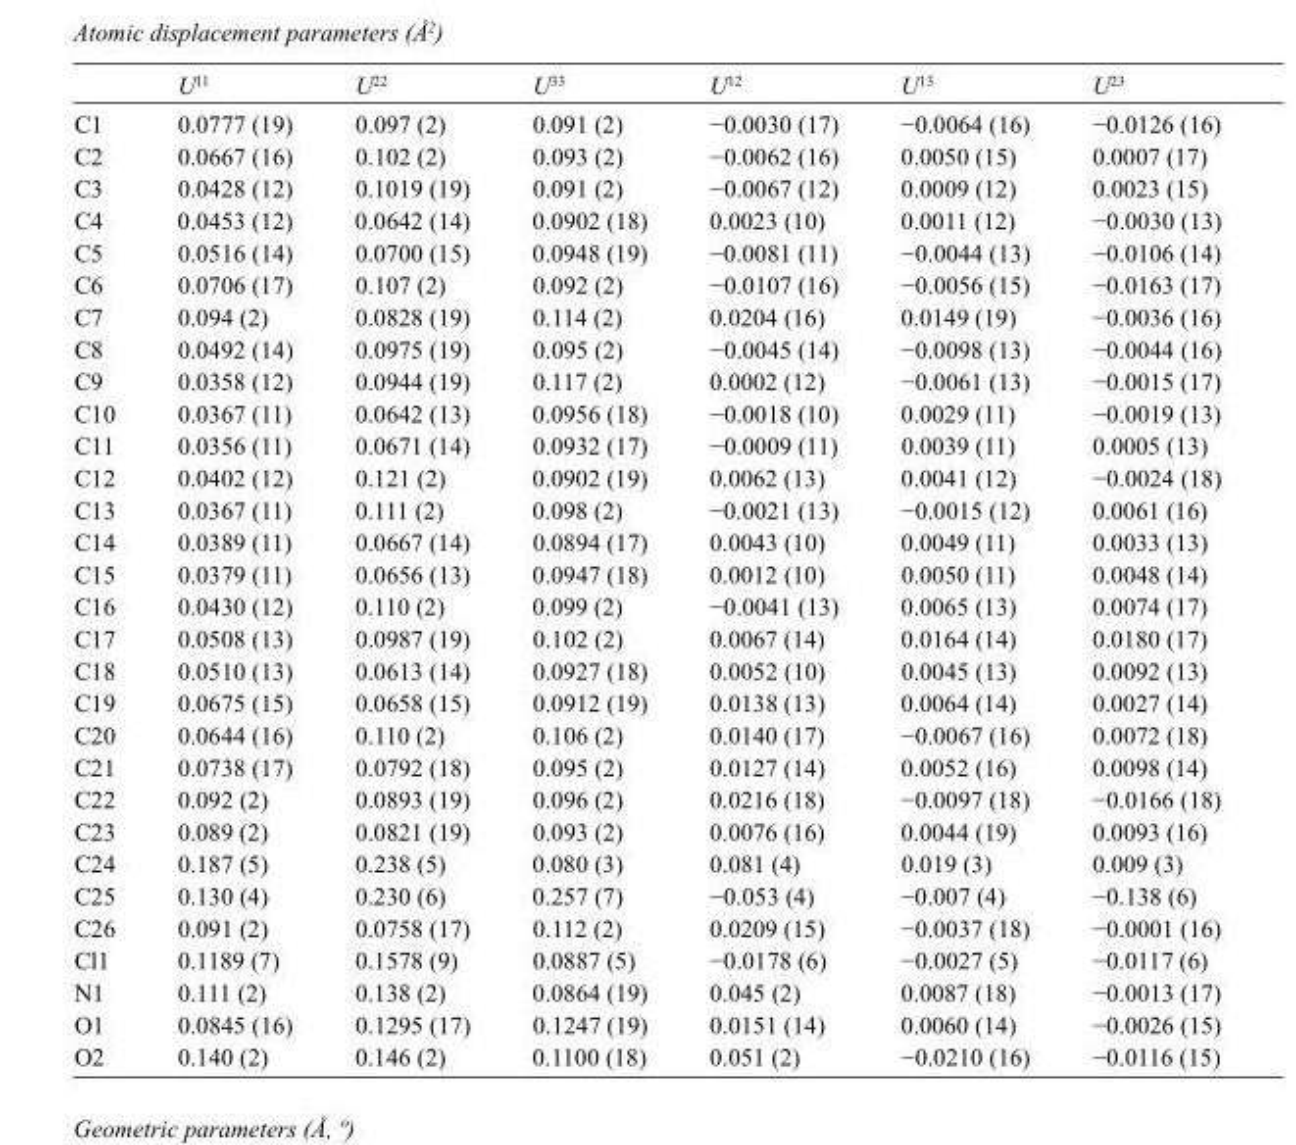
<table><thead><tr><td></td><td>U<sup>11</sup></td><td>U<sup>22</sup></td><td>U<sup>33</sup></td><td>U<sup>12</sup></td><td>U<sup>13</sup></td><td>U<sup>23</sup></td></tr></thead><tbody><tr><td>C1</td><td>0.0777 (19)</td><td>0.097 (2)</td><td>0.091 (2)</td><td>−0.0030 (17)</td><td>−0.0064 (16)</td><td>−0.0126 (16)</td></tr><tr><td>C2</td><td>0.0667 (16)</td><td>0.102 (2)</td><td>0.093 (2)</td><td>−0.0062 (16)</td><td>0.0050 (15)</td><td>0.0007 (17)</td></tr><tr><td>C3</td><td>0.0428 (12)</td><td>0.1019 (19)</td><td>0.091 (2)</td><td>−0.0067 (12)</td><td>0.0009 (12)</td><td>0.0023 (15)</td></tr><tr><td>C4</td><td>0.0453 (12)</td><td>0.0642 (14)</td><td>0.0902 (18)</td><td>0.0023 (10)</td><td>0.0011 (12)</td><td>−0.0030 (13)</td></tr><tr><td>C5</td><td>0.0516 (14)</td><td>0.0700 (15)</td><td>0.0948 (19)</td><td>−0.0081 (11)</td><td>−0.0044 (13)</td><td>−0.0106 (14)</td></tr><tr><td>C6</td><td>0.0706 (17)</td><td>0.107 (2)</td><td>0.092 (2)</td><td>−0.0107 (16)</td><td>−0.0056 (15)</td><td>−0.0163 (17)</td></tr><tr><td>C7</td><td>0.094 (2)</td><td>0.0828 (19)</td><td>0.114 (2)</td><td>0.0204 (16)</td><td>0.0149 (19)</td><td>−0.0036 (16)</td></tr><tr><td>C8</td><td>0.0492 (14)</td><td>0.0975 (19)</td><td>0.095 (2)</td><td>−0.0045 (14)</td><td>−0.0098 (13)</td><td>−0.0044 (16)</td></tr><tr><td>C9</td><td>0.0358 (12)</td><td>0.0944 (19)</td><td>0.117 (2)</td><td>0.0002 (12)</td><td>−0.0061 (13)</td><td>−0.0015 (17)</td></tr><tr><td>C10</td><td>0.0367 (11)</td><td>0.0642 (13)</td><td>0.0956 (18)</td><td>−0.0018 (10)</td><td>0.0029 (11)</td><td>−0.0019 (13)</td></tr><tr><td>C11</td><td>0.0356 (11)</td><td>0.0671 (14)</td><td>0.0932 (17)</td><td>−0.0009 (11)</td><td>0.0039 (11)</td><td>0.0005 (13)</td></tr><tr><td>C12</td><td>0.0402 (12)</td><td>0.121 (2)</td><td>0.0902 (19)</td><td>0.0062 (13)</td><td>0.0041 (12)</td><td>−0.0024 (18)</td></tr><tr><td>C13</td><td>0.0367 (11)</td><td>0.111 (2)</td><td>0.098 (2)</td><td>−0.0021 (13)</td><td>−0.0015 (12)</td><td>0.0061 (16)</td></tr><tr><td>C14</td><td>0.0389 (11)</td><td>0.0667 (14)</td><td>0.0894 (17)</td><td>0.0043 (10)</td><td>0.0049 (11)</td><td>0.0033 (13)</td></tr><tr><td>C15</td><td>0.0379 (11)</td><td>0.0656 (13)</td><td>0.0947 (18)</td><td>0.0012 (10)</td><td>0.0050 (11)</td><td>0.0048 (14)</td></tr><tr><td>C16</td><td>0.0430 (12)</td><td>0.110 (2)</td><td>0.099 (2)</td><td>−0.0041 (13)</td><td>0.0065 (13)</td><td>0.0074 (17)</td></tr><tr><td>C17</td><td>0.0508 (13)</td><td>0.0987 (19)</td><td>0.102 (2)</td><td>0.0067 (14)</td><td>0.0164 (14)</td><td>0.0180 (17)</td></tr><tr><td>C18</td><td>0.0510 (13)</td><td>0.0613 (14)</td><td>0.0927 (18)</td><td>0.0052 (10)</td><td>0.0045 (13)</td><td>0.0092 (13)</td></tr><tr><td>C19</td><td>0.0675 (15)</td><td>0.0658 (15)</td><td>0.0912 (19)</td><td>0.0138 (13)</td><td>0.0064 (14)</td><td>0.0027 (14)</td></tr><tr><td>C20</td><td>0.0644 (16)</td><td>0.110 (2)</td><td>0.106 (2)</td><td>0.0140 (17)</td><td>−0.0067 (16)</td><td>0.0072 (18)</td></tr><tr><td>C21</td><td>0.0738 (17)</td><td>0.0792 (18)</td><td>0.095 (2)</td><td>0.0127 (14)</td><td>0.0052 (16)</td><td>0.0098 (14)</td></tr><tr><td>C22</td><td>0.092 (2)</td><td>0.0893 (19)</td><td>0.096 (2)</td><td>0.0216 (18)</td><td>−0.0097 (18)</td><td>−0.0166 (18)</td></tr><tr><td>C23</td><td>0.089 (2)</td><td>0.0821 (19)</td><td>0.093 (2)</td><td>0.0076 (16)</td><td>0.0044 (19)</td><td>0.0093 (16)</td></tr><tr><td>C24</td><td>0.187 (5)</td><td>0.238 (5)</td><td>0.080 (3)</td><td>0.081 (4)</td><td>0.019 (3)</td><td>0.009 (3)</td></tr><tr><td>C25</td><td>0.130 (4)</td><td>0.230 (6)</td><td>0.257 (7)</td><td>−0.053 (4)</td><td>−0.007 (4)</td><td>−0.138 (6)</td></tr><tr><td>C26</td><td>0.091 (2)</td><td>0.0758 (17)</td><td>0.112 (2)</td><td>0.0209 (15)</td><td>−0.0037 (18)</td><td>−0.0001 (16)</td></tr><tr><td>Cl1</td><td>0.1189 (7)</td><td>0.1578 (9)</td><td>0.0887 (5)</td><td>−0.0178 (6)</td><td>−0.0027 (5)</td><td>−0.0117 (6)</td></tr><tr><td>N1</td><td>0.111 (2)</td><td>0.138 (2)</td><td>0.0864 (19)</td><td>0.045 (2)</td><td>0.0087 (18)</td><td>−0.0013 (17)</td></tr><tr><td>O1</td><td>0.0845 (16)</td><td>0.1295 (17)</td><td>0.1247 (19)</td><td>0.0151 (14)</td><td>0.0060 (14)</td><td>−0.0026 (15)</td></tr><tr><td>O2</td><td>0.140 (2)</td><td>0.146 (2)</td><td>0.1100 (18)</td><td>0.051 (2)</td><td>−0.0210 (16)</td><td>−0.0116 (15)</td></tr></tbody></table>